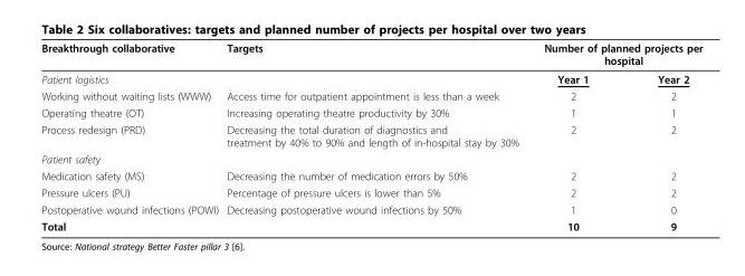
<table><thead><tr><td rowspan="2">Breakthrough collaborative Patient logistics</td><td rowspan="2">Targets</td><td colspan="2">Number of planned projects per hospital</td></tr><tr><td>Year 1</td><td>Year 2</td></tr></thead><tbody><tr><td>Working without waiting lists (WWW)</td><td>Access time for outpatient appointment is less than a week</td><td>2</td><td>2</td></tr><tr><td>Operating theatre (OT)</td><td>Increasing operating theatre productivity by 30%</td><td>1</td><td>1</td></tr><tr><td>Process redesign (PRD)</td><td>Decreasing the total duration of diagnostics and treatment by 40% to 90% and length of in-hospital stay by 30%</td><td>2</td><td>2</td></tr><tr><td colspan="4">Patient safety</td></tr><tr><td>Medication safety (MS)</td><td>Decreasing the number of medication errors by 50%</td><td>2</td><td>2</td></tr><tr><td>Pressure ulcers (PU)</td><td>Percentage of pressure ulcers is lower than 5%</td><td>2</td><td>2</td></tr><tr><td>Postoperative wound infections (POWI)</td><td>Decreasing postoperative wound infections by 50%</td><td>1</td><td>0</td></tr><tr><td>Total</td><td></td><td>10</td><td>9</td></tr></tbody></table>